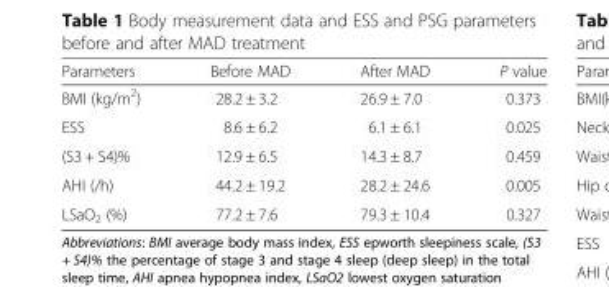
<table><thead><tr><td>Parameters</td><td>Before MAD</td><td>After MAD</td><td>P value</td></tr></thead><tbody><tr><td>BMI (kg/m<sup>2</sup>)</td><td>28.2 ± 3.2</td><td>26.9 ± 7.0</td><td>0.373</td></tr><tr><td>ESS</td><td>8.6 ± 6.2</td><td>6.1 ± 6.1</td><td>0.025</td></tr><tr><td>(S3 + S4)%</td><td>12.9 ± 6.5</td><td>14.3 ± 8.7</td><td>0.459</td></tr><tr><td>AHI (/h)</td><td>44.2 ± 19.2</td><td>28.2 ± 24.6</td><td>0.005</td></tr><tr><td>LSaO<sub>2</sub> (%)</td><td>77.2 ± 7.6</td><td>79.3 ± 10.4</td><td>0.327</td></tr></tbody></table>